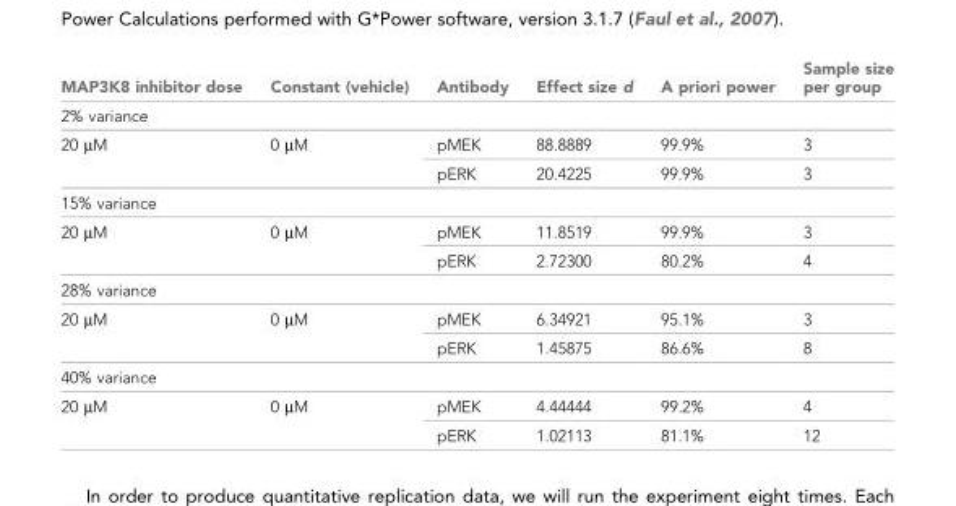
<table><thead><tr><td>MAP3K8 inhibitor dose</td><td>Constant (vehicle)</td><td>Antibody</td><td>Effect size d</td><td>A priori power</td><td>Sample size per group</td></tr></thead><tbody><tr><td colspan="6">2% variance</td></tr><tr><td rowspan="2">20 µM</td><td rowspan="2">0 µM</td><td>pMEK</td><td>88.8889</td><td>99.9%</td><td>3</td></tr><tr><td>pERK</td><td>20.4225</td><td>99.9%</td><td>3</td></tr><tr><td colspan="6">15% variance</td></tr><tr><td rowspan="2">20 µM</td><td rowspan="2">0 µM</td><td>pMEK</td><td>11.8519</td><td>99.9%</td><td>3</td></tr><tr><td>pERK</td><td>2.72300</td><td>80.2%</td><td>4</td></tr><tr><td colspan="6">28% variance</td></tr><tr><td rowspan="2">20 µM</td><td rowspan="2">0 µM</td><td>pMEK</td><td>6.34921</td><td>95.1%</td><td>3</td></tr><tr><td>pERK</td><td>1.45875</td><td>86.6%</td><td>8</td></tr><tr><td colspan="6">40% variance</td></tr><tr><td rowspan="2">20 µM</td><td rowspan="2">0 µM</td><td>pMEK</td><td>4.44444</td><td>99.2%</td><td>4</td></tr><tr><td>pERK</td><td>1.02113</td><td>81.1%</td><td>12</td></tr></tbody></table>